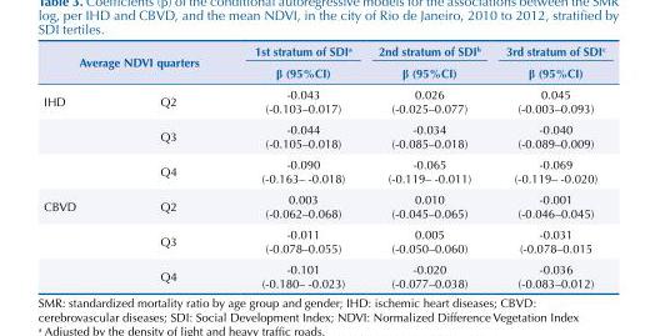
<table><thead><tr><td rowspan="2" colspan="2">Average NDVI quarters</td><td rowspan="3">1st stratum of SDI<sup>a</sup> β (95%CI) -0.043 (-0.103–0.017)</td><td rowspan="3">2nd stratum of SDI<sup>b</sup> β (95%CI) 0.026 (-0.025–0.077)</td><td rowspan="3">3rd stratum of SDI<sup>c</sup> β (95%CI) 0.045 (-0.003–0.093)</td></tr><tr></tr><tr><td>IHD</td><td>Q2</td></tr></thead><tbody><tr><td></td><td>Q3</td><td>-0.044 (-0.105–0.018)</td><td>-0.034 (-0.085–0.018)</td><td>-0.040 (-0.089–0.009)</td></tr><tr><td></td><td>Q4</td><td>-0.090 (-0.163– -0.018)</td><td>-0.065 (-0.119– -0.011)</td><td>-0.069 (-0.119– -0.020)</td></tr><tr><td rowspan="3">CBVD</td><td>Q2</td><td>0.003 (-0.062–0.068)</td><td>0.010 (-0.045–0.065)</td><td>-0.001 (-0.046–0.045)</td></tr><tr><td>Q3</td><td>-0.011 (-0.078–0.055)</td><td>0.005 (-0.050–0.060)</td><td>-0.031 (-0.078–0.015</td></tr><tr><td>Q4</td><td>-0.101 (-0.180– -0.023)</td><td>-0.020 (-0.077–0.038)</td><td>-0.036 (-0.083–0.012)</td></tr></tbody></table>